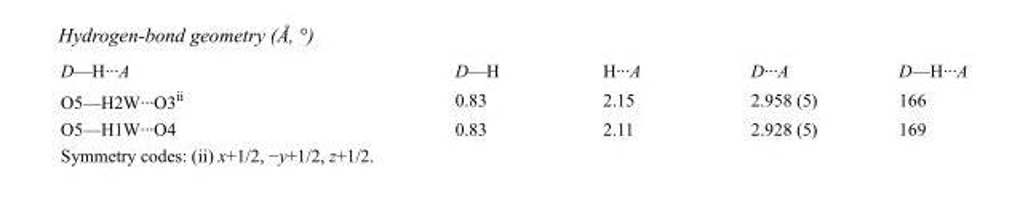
<table><tbody><tr><td>D—H···A</td><td>D—H</td><td>H···A</td><td>D···A</td><td>D—H···A</td></tr><tr><td>O5—H2W···O3<sup>ii</sup></td><td>0.83</td><td>2.15</td><td>2.958 (5)</td><td>166</td></tr><tr><td>O5—H1W···O4</td><td>0.83</td><td>2.11</td><td>2.928 (5)</td><td>169</td></tr></tbody></table>